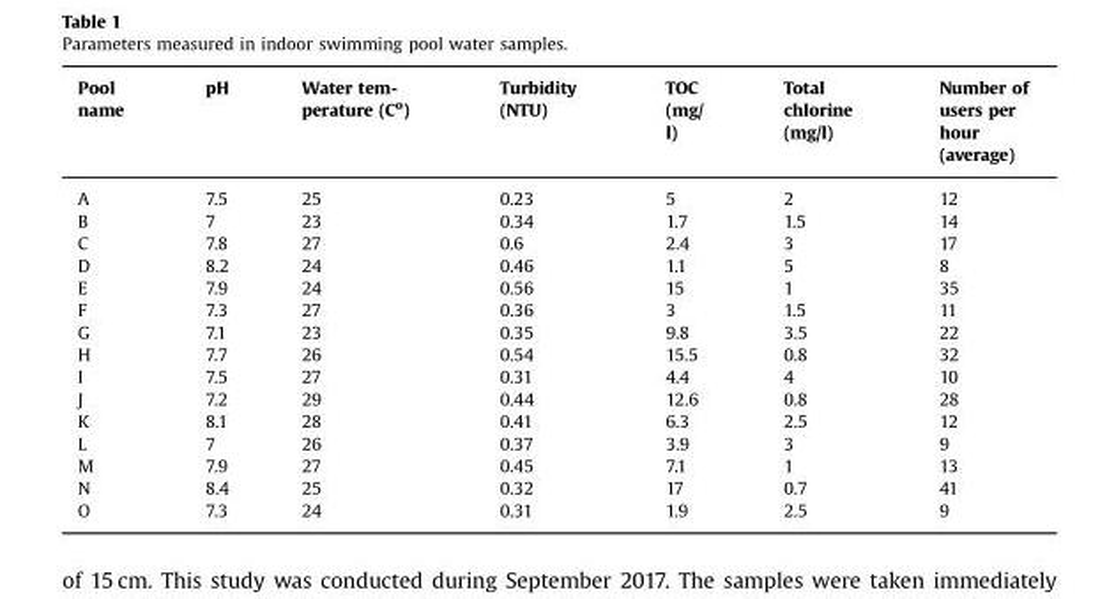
<table><thead><tr><td>Pool name</td><td>pH</td><td>Water tem- perature (Co)</td><td>Turbidity (NTU)</td><td>TOC (mg/ l)</td><td>Total chlorine (mg/l)</td><td>Number of users per hour (average)</td></tr></thead><tbody><tr><td>A</td><td>7.5</td><td>25</td><td>0.23</td><td>5</td><td>2</td><td>12</td></tr><tr><td>B</td><td>7</td><td>23</td><td>0.34</td><td>1.7</td><td>1.5</td><td>14</td></tr><tr><td>C</td><td>7.8</td><td>27</td><td>0.6</td><td>2.4</td><td>3</td><td>17</td></tr><tr><td>D</td><td>8.2</td><td>24</td><td>0.46</td><td>1.1</td><td>5</td><td>8</td></tr><tr><td>E</td><td>7.9</td><td>24</td><td>0.56</td><td>15</td><td>1</td><td>35</td></tr><tr><td>F</td><td>7.3</td><td>27</td><td>0.36</td><td>3</td><td>1.5</td><td>11</td></tr><tr><td>G</td><td>7.1</td><td>23</td><td>0.35</td><td>9.8</td><td>3.5</td><td>22</td></tr><tr><td>H</td><td>7.7</td><td>26</td><td>0.54</td><td>15.5</td><td>0.8</td><td>32</td></tr><tr><td>I</td><td>7.5</td><td>27</td><td>0.31</td><td>4.4</td><td>4</td><td>10</td></tr><tr><td>J</td><td>7.2</td><td>29</td><td>0.44</td><td>12.6</td><td>0.8</td><td>28</td></tr><tr><td>K</td><td>8.1</td><td>28</td><td>0.41</td><td>6.3</td><td>2.5</td><td>12</td></tr><tr><td>L</td><td>7</td><td>26</td><td>0.37</td><td>3.9</td><td>3</td><td>9</td></tr><tr><td>M</td><td>7.9</td><td>27</td><td>0.45</td><td>7.1</td><td>1</td><td>13</td></tr><tr><td>N</td><td>8.4</td><td>25</td><td>0.32</td><td>17</td><td>0.7</td><td>41</td></tr><tr><td>O</td><td>7.3</td><td>24</td><td>0.31</td><td>1.9</td><td>2.5</td><td>9</td></tr></tbody></table>